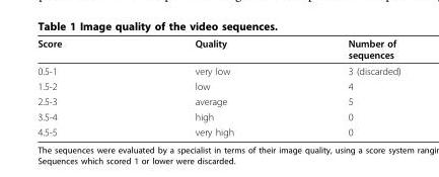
<table><thead><tr><td>Score</td><td>Quality</td><td>Number of sequences</td></tr></thead><tbody><tr><td>0.5-1</td><td>very low</td><td>3 (discarded)</td></tr><tr><td>1.5-2</td><td>low</td><td>4</td></tr><tr><td>2.5-3</td><td>average</td><td>5</td></tr><tr><td>3.5-4</td><td>high</td><td>0</td></tr><tr><td>4.5-5</td><td>very high</td><td>0</td></tr></tbody></table>